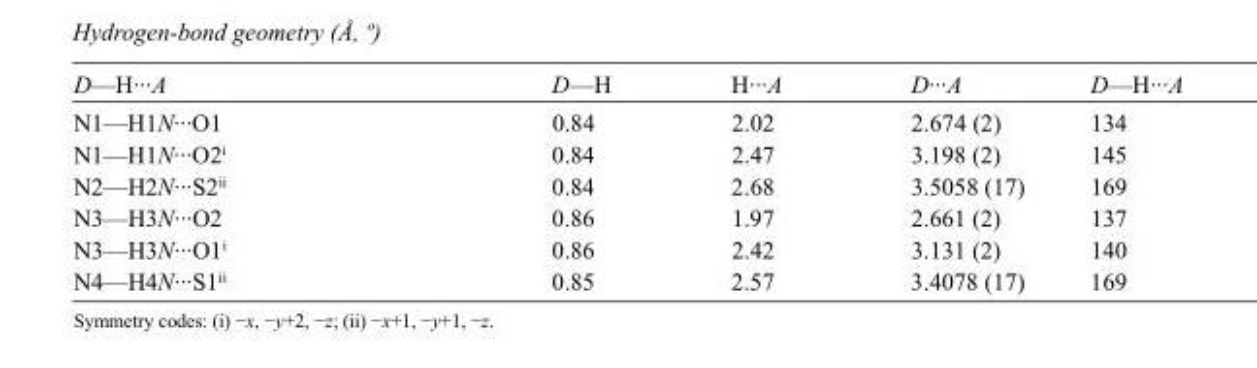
<table><tbody><tr><td>D—H···A</td><td>D—H</td><td>H···A</td><td>D···A</td><td>D—H···A</td></tr><tr><td>N1—H1N···O1</td><td>0.84</td><td>2.02</td><td>2.674 (2)</td><td>134</td></tr><tr><td>N1—H1N···O2<sup>i</sup></td><td>0.84</td><td>2.47</td><td>3.198 (2)</td><td>145</td></tr><tr><td>N2—H2N···S2<sup>ii</sup></td><td>0.84</td><td>2.68</td><td>3.5058 (17)</td><td>169</td></tr><tr><td>N3—H3N···O2</td><td>0.86</td><td>1.97</td><td>2.661 (2)</td><td>137</td></tr><tr><td>N3—H3N···O1<sup>i</sup></td><td>0.86</td><td>2.42</td><td>3.131 (2)</td><td>140</td></tr><tr><td>N4—H4N···S1<sup>ii</sup></td><td>0.85</td><td>2.57</td><td>3.4078 (17)</td><td>169</td></tr></tbody></table>